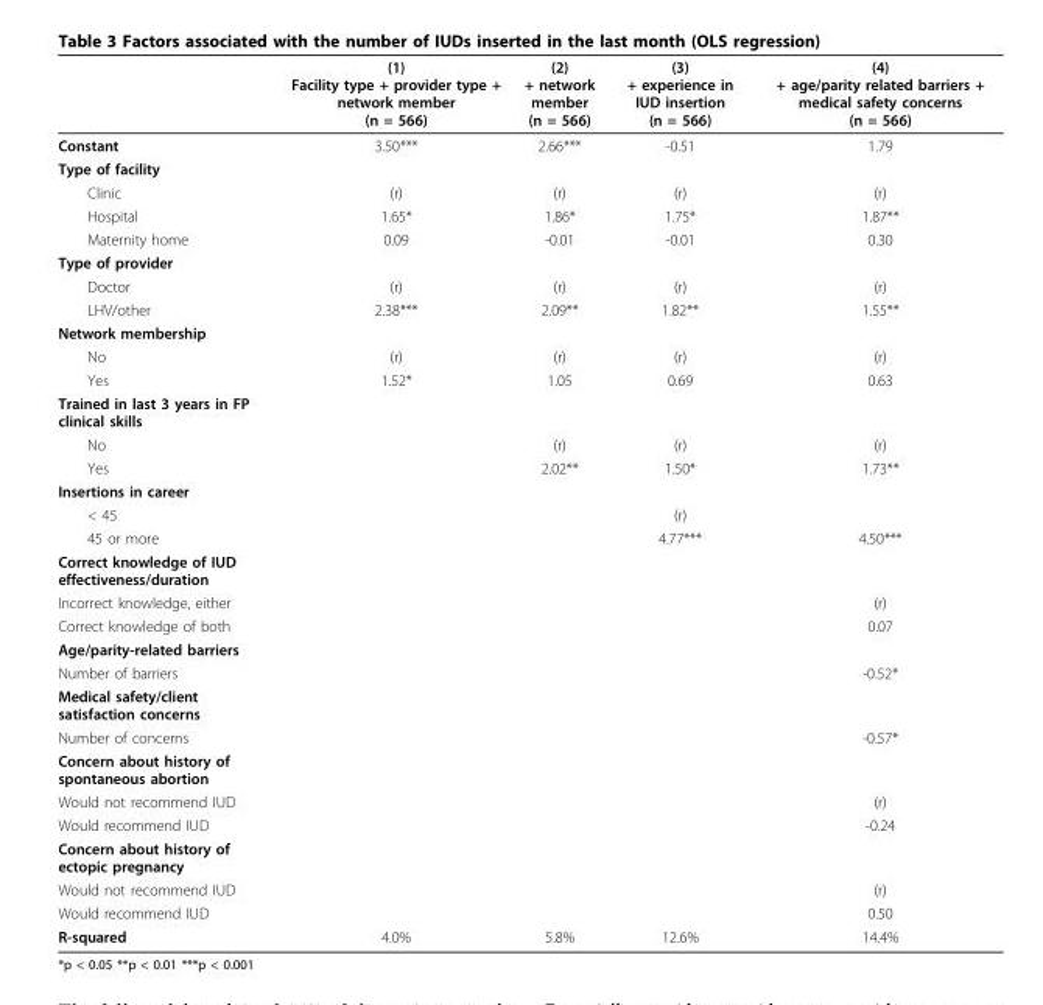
<table><thead><tr><td></td><td>(1) Facility type + provider type + network member (n = 566)</td><td>(2) + network member (n = 566)</td><td>(3) + experience in IUD insertion (n = 566)</td><td>(4) + age/parity related barriers + medical safety concerns (n = 566)</td></tr></thead><tbody><tr><td>Constant</td><td>3.50***</td><td>2.66***</td><td>-0.51</td><td>1.79</td></tr><tr><td colspan="5">Type of facility</td></tr><tr><td>Clinic</td><td>(r)</td><td>(r)</td><td>(r)</td><td>(r)</td></tr><tr><td>Hospital</td><td>1.65*</td><td>1.86*</td><td>1.75*</td><td>1.87**</td></tr><tr><td>Maternity home</td><td>0.09</td><td>-0.01</td><td>-0.01</td><td>0.30</td></tr><tr><td colspan="5">Type of provider</td></tr><tr><td>Doctor</td><td>(r)</td><td>(r)</td><td>(r)</td><td>(r)</td></tr><tr><td>LHV/other</td><td>2.38***</td><td>2.09**</td><td>1.82**</td><td>1.55**</td></tr><tr><td colspan="5">Network membership</td></tr><tr><td>No</td><td>(r)</td><td>(r)</td><td>(r)</td><td>(r)</td></tr><tr><td>Yes</td><td>1.52*</td><td>1.05</td><td>0.69</td><td>0.63</td></tr><tr><td colspan="5">Trained in last 3 years in FP clinical skills</td></tr><tr><td>No</td><td></td><td>(r)</td><td>(r)</td><td>(r)</td></tr><tr><td>Yes</td><td></td><td>2.02**</td><td>1.50*</td><td>1.73**</td></tr><tr><td colspan="5">Insertions in career</td></tr><tr><td>&lt; 45</td><td></td><td></td><td>(r)</td><td></td></tr><tr><td>45 or more</td><td></td><td></td><td>4.77***</td><td>4.50***</td></tr><tr><td colspan="5">Correct knowledge of IUD effectiveness/duration</td></tr><tr><td>Incorrect knowledge, either</td><td></td><td></td><td></td><td>(r)</td></tr><tr><td>Correct knowledge of both</td><td></td><td></td><td></td><td>0.07</td></tr><tr><td colspan="5">Age/parity-related barriers</td></tr><tr><td>Number of barriers</td><td></td><td></td><td></td><td>-0.52*</td></tr><tr><td colspan="5">Medical safety/client satisfaction concerns</td></tr><tr><td>Number of concerns</td><td></td><td></td><td></td><td>-0.57*</td></tr><tr><td colspan="5">Concern about history of spontaneous abortion</td></tr><tr><td>Would not recommend IUD</td><td></td><td></td><td></td><td>(r)</td></tr><tr><td>Would recommend IUD</td><td></td><td></td><td></td><td>-0.24</td></tr><tr><td colspan="5">Concern about history of ectopic pregnancy</td></tr><tr><td>Would not recommend IUD</td><td></td><td></td><td></td><td>(r)</td></tr><tr><td>Would recommend IUD</td><td></td><td></td><td></td><td>0.50</td></tr><tr><td>R-squared</td><td>4.0%</td><td>5.8%</td><td>12.6%</td><td>14.4%</td></tr></tbody></table>